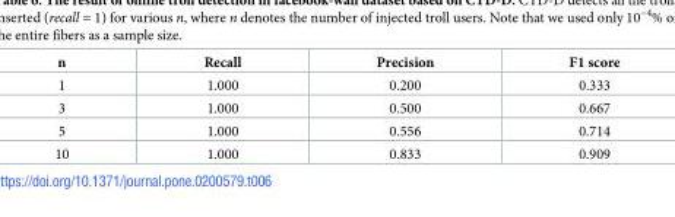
<table><thead><tr><td>n</td><td>Recall</td><td>Precision</td><td>F1 score</td></tr></thead><tbody><tr><td>1</td><td>1.000</td><td>0.200</td><td>0.333</td></tr><tr><td>3</td><td>1.000</td><td>0.500</td><td>0.667</td></tr><tr><td>5</td><td>1.000</td><td>0.556</td><td>0.714</td></tr><tr><td>10</td><td>1.000</td><td>0.833</td><td>0.909</td></tr></tbody></table>